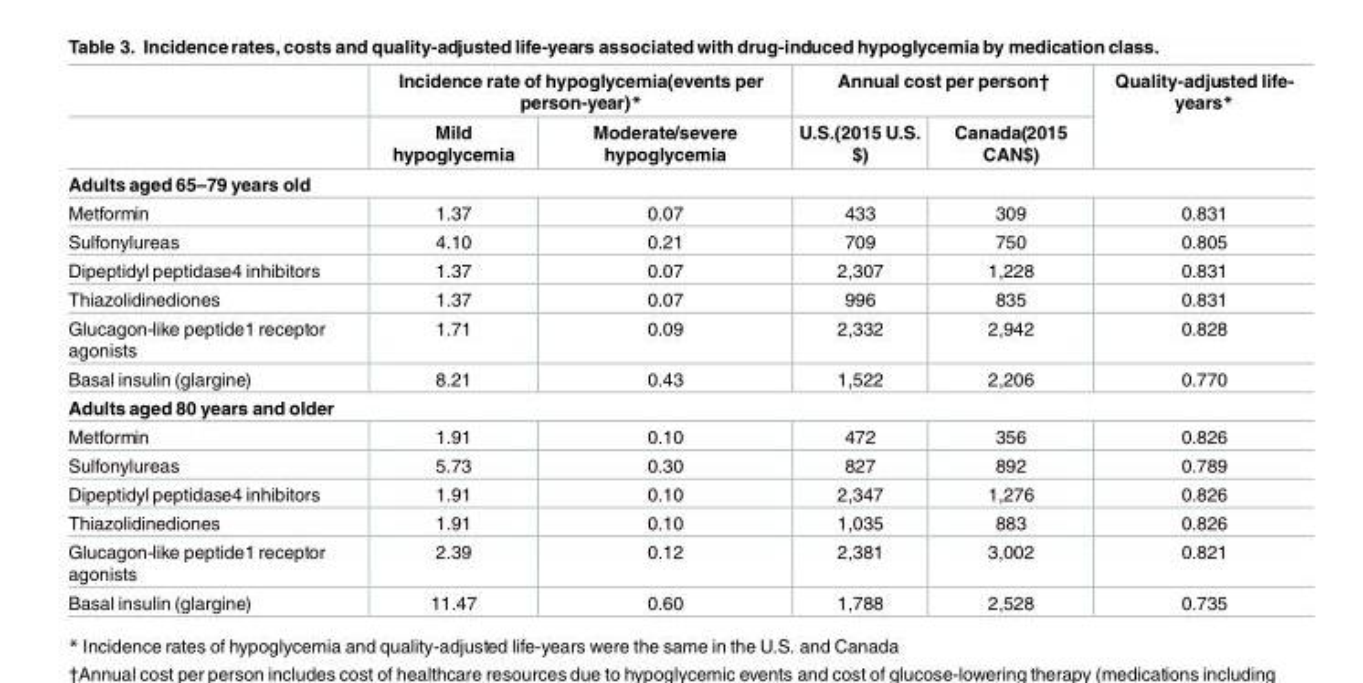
<table><thead><tr><td rowspan="2"></td><td colspan="2">Incidence rate of hypoglycemia(events per person-year)*</td><td colspan="2">Annual cost per person†</td><td rowspan="2">Quality-adjusted life- years*</td></tr><tr><td>Mild hypoglycemia</td><td>Moderate/severe hypoglycemia</td><td>U.S.(2015 U.S. $)</td><td>Canada(2015 CAN$)</td></tr></thead><tbody><tr><td colspan="6">Adults aged 65–79 years old</td></tr><tr><td>Metformin</td><td>1.37</td><td>0.07</td><td>433</td><td>309</td><td>0.831</td></tr><tr><td>Sulfonylureas</td><td>4.10</td><td>0.21</td><td>709</td><td>750</td><td>0.805</td></tr><tr><td>Dipeptidyl peptidase4 inhibitors</td><td>1.37</td><td>0.07</td><td>2,307</td><td>1,228</td><td>0.831</td></tr><tr><td>Thiazolidinediones</td><td>1.37</td><td>0.07</td><td>996</td><td>835</td><td>0.831</td></tr><tr><td>Glucagon-like peptide1 receptor agonists</td><td>1.71</td><td>0.09</td><td>2,332</td><td>2,942</td><td>0.828</td></tr><tr><td>Basal insulin (glargine)</td><td>8.21</td><td>0.43</td><td>1,522</td><td>2,206</td><td>0.770</td></tr><tr><td colspan="6">Adults aged 80 years and older</td></tr><tr><td>Metformin</td><td>1.91</td><td>0.10</td><td>472</td><td>356</td><td>0.826</td></tr><tr><td>Sulfonylureas</td><td>5.73</td><td>0.30</td><td>827</td><td>892</td><td>0.789</td></tr><tr><td>Dipeptidyl peptidase4 inhibitors</td><td>1.91</td><td>0.10</td><td>2,347</td><td>1,276</td><td>0.826</td></tr><tr><td>Thiazolidinediones</td><td>1.91</td><td>0.10</td><td>1,035</td><td>883</td><td>0.826</td></tr><tr><td>Glucagon-like peptide1 receptor agonists</td><td>2.39</td><td>0.12</td><td>2,381</td><td>3,002</td><td>0.821</td></tr><tr><td>Basal insulin (glargine)</td><td>11.47</td><td>0.60</td><td>1,788</td><td>2,528</td><td>0.735</td></tr></tbody></table>